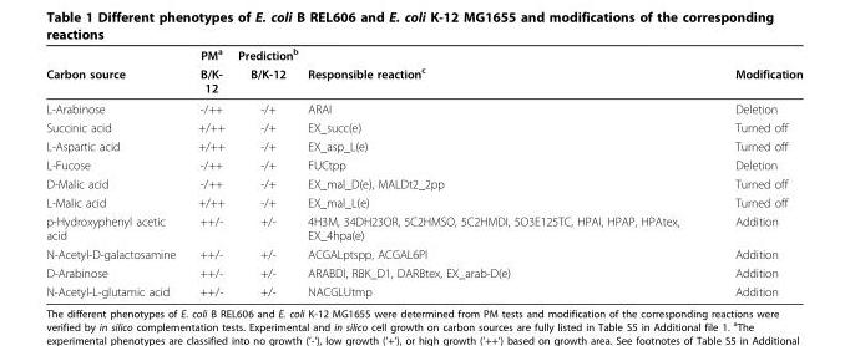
<table><thead><tr><td rowspan="2">Carbon source</td><td rowspan="2">PM<sup>a</sup> B/K- 12</td><td rowspan="2">Prediction<sup>b</sup> B/K-12</td><td rowspan="2">Responsible reaction<sup>c</sup></td><td rowspan="2">Modification</td></tr><tr></tr></thead><tbody><tr><td>L-Arabinose</td><td>-/++</td><td>-/+</td><td>ARAI</td><td>Deletion</td></tr><tr><td>Succinic acid</td><td>+/++</td><td>-/+</td><td>EX_succ(e)</td><td>Turned off</td></tr><tr><td>L-Aspartic acid</td><td>+/++</td><td>-/+</td><td>EX_asp_L(e)</td><td>Turned off</td></tr><tr><td>L-Fucose</td><td>-/++</td><td>-/+</td><td>FUCtpp</td><td>Deletion</td></tr><tr><td>D-Malic acid</td><td>-/++</td><td>-/+</td><td>EX_mal_D(e), MALDt2_2pp</td><td>Turned off</td></tr><tr><td>L-Malic acid</td><td>+/++</td><td>-/+</td><td>EX_mal_L(e)</td><td>Turned off</td></tr><tr><td>p-Hydroxyphenyl acetic acid</td><td>++/-</td><td>+/-</td><td>4H3M, 34DH23OR, 5C2HMSO, 5C2HMDI, 5O3E125TC, HPAI, HPAP, HPAtex, EX_4hpa(e)</td><td>Addition</td></tr><tr><td>N-Acetyl-D-galactosamine</td><td>++/-</td><td>+/-</td><td>ACGALptspp, ACGAL6PI</td><td>Addition</td></tr><tr><td>D-Arabinose</td><td>++/-</td><td>+/-</td><td>ARABDI, RBK_D1, DARBtex, EX_arab-D(e)</td><td>Addition</td></tr><tr><td>N-Acetyl-L-glutamic acid</td><td>++/-</td><td>+/-</td><td>NACGLUtmp</td><td>Addition</td></tr></tbody></table>